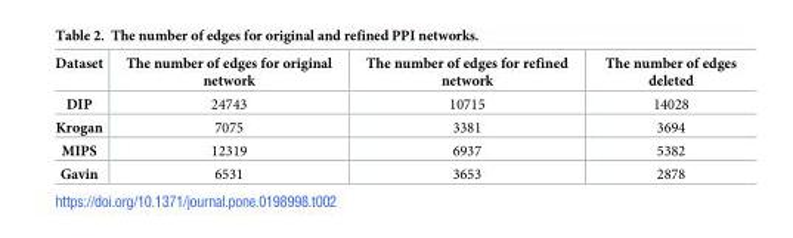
<table><thead><tr><td>Dataset</td><td>The number of edges for original network</td><td>The number of edges for refined network</td><td>The number of edges deleted</td></tr></thead><tbody><tr><td>DIP</td><td>24743</td><td>10715</td><td>14028</td></tr><tr><td>Krogan</td><td>7075</td><td>3381</td><td>3694</td></tr><tr><td>MIPS</td><td>12319</td><td>6937</td><td>5382</td></tr><tr><td>Gavin</td><td>6531</td><td>3653</td><td>2878</td></tr></tbody></table>